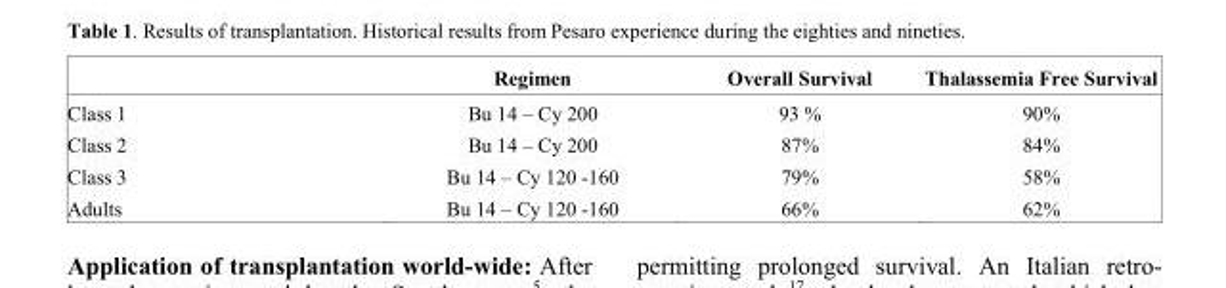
<table><thead><tr><td></td><td>Regimen</td><td>Overall Survival</td><td>Thalassemia Free Survival</td></tr></thead><tbody><tr><td>Class 1</td><td>Bu 14 – Cy 200</td><td>93 %</td><td>90%</td></tr><tr><td>Class 2</td><td>Bu 14 – Cy 200</td><td>87%</td><td>84%</td></tr><tr><td>Class 3</td><td>Bu 14 – Cy 120 -160</td><td>79%</td><td>58%</td></tr><tr><td>Adults</td><td>Bu 14 – Cy 120 -160</td><td>66%</td><td>62%</td></tr></tbody></table>